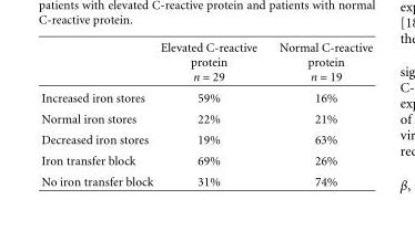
<table><thead><tr><td></td><td>Elevated C-reactive protein n = 29</td><td>Normal C-reactive protein n = 19</td></tr></thead><tbody><tr><td>Increased iron stores</td><td>59%</td><td>16%</td></tr><tr><td>Normal iron stores</td><td>22%</td><td>21%</td></tr><tr><td>Decreased iron stores</td><td>19%</td><td>63%</td></tr><tr><td>Iron transfer block</td><td>69%</td><td>26%</td></tr><tr><td>No iron transfer block</td><td>31%</td><td>74%</td></tr></tbody></table>